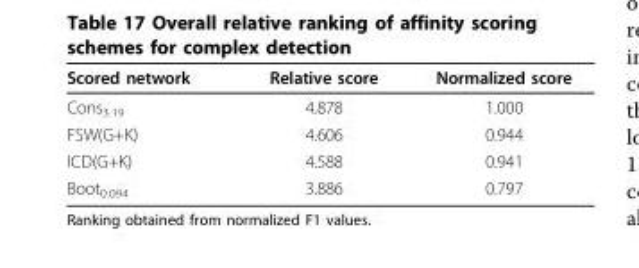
<table><thead><tr><td>Scored network</td><td>Relative score</td><td>Normalized score</td></tr></thead><tbody><tr><td>Cons<sub>3.19</sub></td><td>4.878</td><td>1.000</td></tr><tr><td>FSW(G+K)</td><td>4.606</td><td>0.944</td></tr><tr><td>ICD(G+K)</td><td>4.588</td><td>0.941</td></tr><tr><td>Boot<sub>0.094</sub></td><td>3.886</td><td>0.797</td></tr></tbody></table>